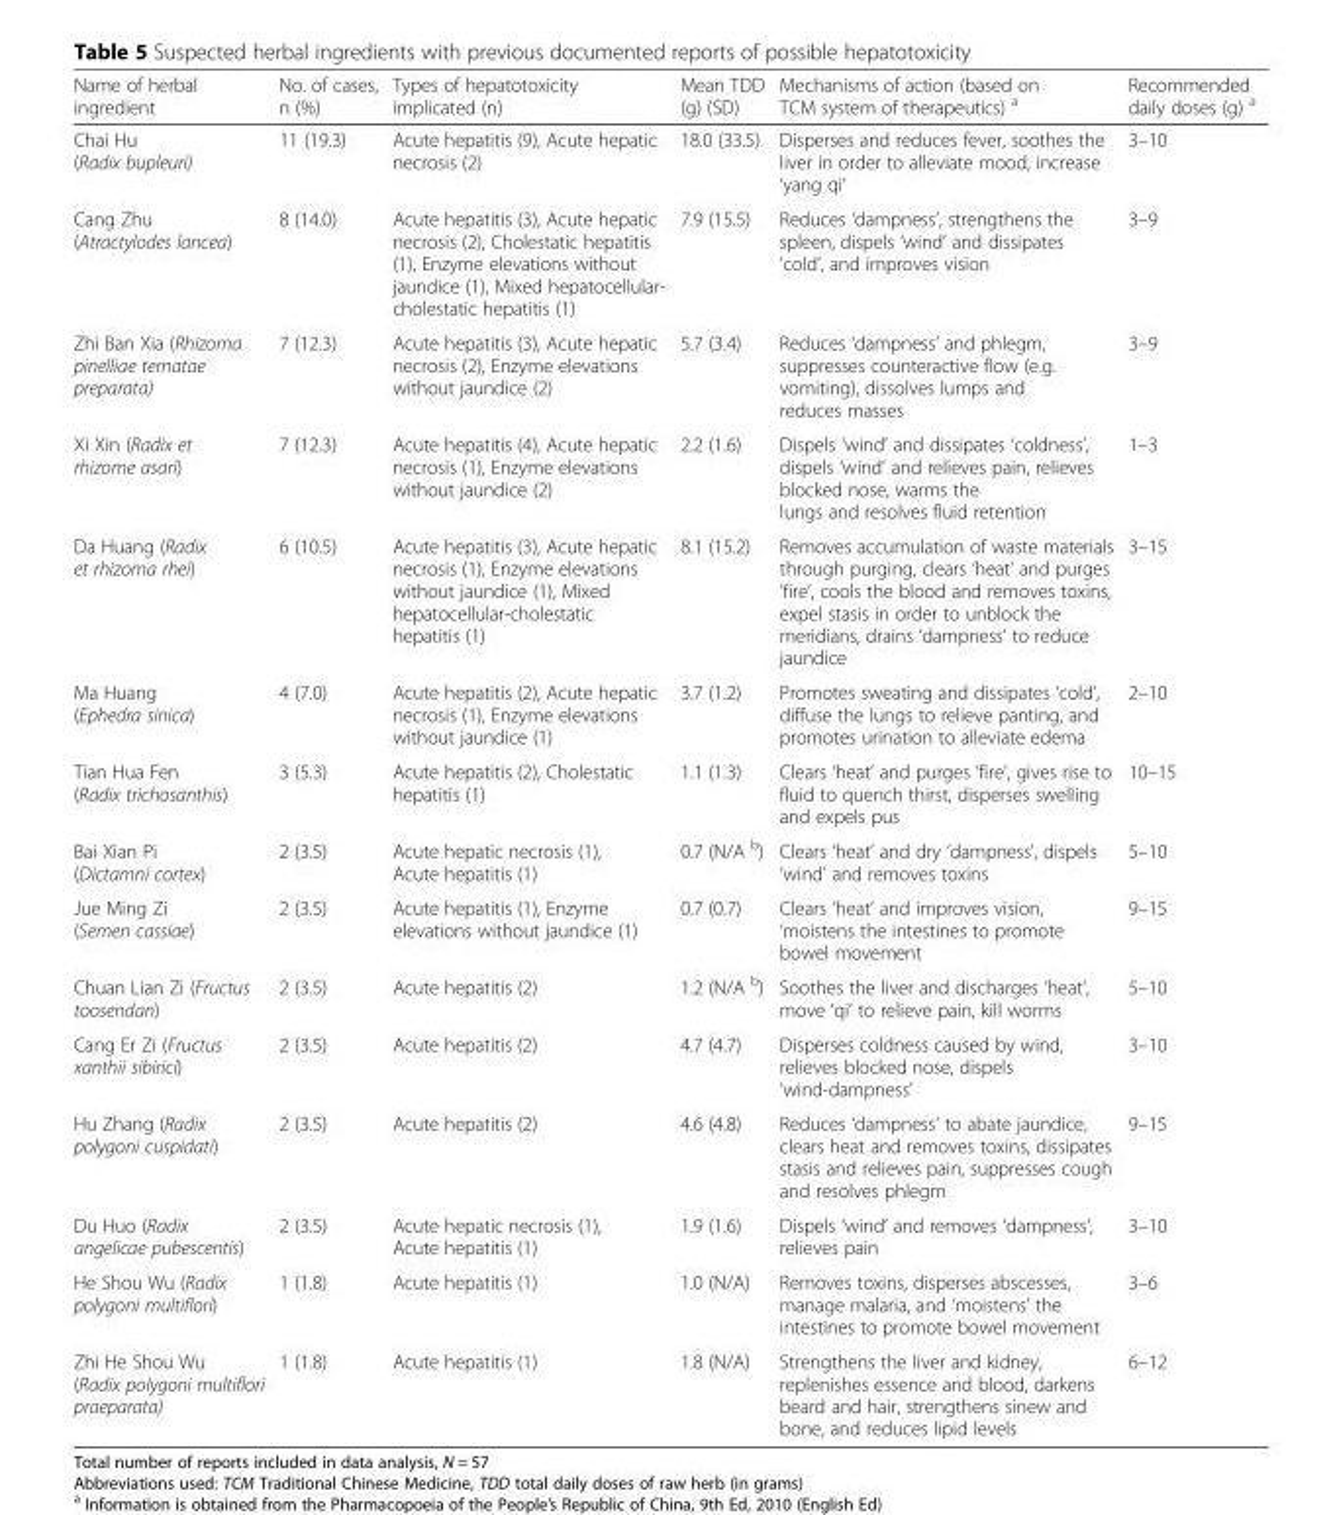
<table><thead><tr><td>Name of herbal ingredient</td><td>No. of cases, n (%)</td><td>Types of hepatotoxicity implicated (n)</td><td>Mean TDD (g) (SD)</td><td>Mechanisms of action (based on TCM system of therapeutics) <sup>a</sup></td><td>Recommended daily doses (g) <sup>a</sup></td></tr></thead><tbody><tr><td>Chai Hu (Radix bupleuri)</td><td>11 (19.3)</td><td>Acute hepatitis (9), Acute hepatic necrosis (2)</td><td>18.0 (33.5)</td><td>Disperses and reduces fever, soothes the liver in order to alleviate mood, increase ‘yang qi’</td><td>3–10</td></tr><tr><td>Cang Zhu (Atractylodes lancea)</td><td>8 (14.0)</td><td>Acute hepatitis (3), Acute hepatic necrosis (2), Cholestatic hepatitis (1), Enzyme elevations without jaundice (1), Mixed hepatocellular- cholestatic hepatitis (1)</td><td>7.9 (15.5)</td><td>Reduces ‘dampness’, strengthens the spleen, dispels ‘wind’ and dissipates ‘cold’, and improves vision</td><td>3–9</td></tr><tr><td>Zhi Ban Xia (Rhizoma pinelliae ternatae preparata)</td><td>7 (12.3)</td><td>Acute hepatitis (3), Acute hepatic necrosis (2), Enzyme elevations without jaundice (2)</td><td>5.7 (3.4)</td><td>Reduces ‘dampness’ and phlegm, suppresses counteractive flow (e.g. vomiting), dissolves lumps and reduces masses</td><td>3–9</td></tr><tr><td>Xi Xin (Radix et rhizome asari)</td><td>7 (12.3)</td><td>Acute hepatitis (4), Acute hepatic necrosis (1), Enzyme elevations without jaundice (2)</td><td>2.2 (1.6)</td><td>Dispels ‘wind’ and dissipates ‘coldness’, dispels ‘wind’ and relieves pain, relieves blocked nose, warms the lungs and resolves fluid retention</td><td>1–3</td></tr><tr><td>Da Huang (Radix et rhizoma rhei)</td><td>6 (10.5)</td><td>Acute hepatitis (3), Acute hepatic necrosis (1), Enzyme elevations without jaundice (1), Mixed hepatocellular-cholestatic hepatitis (1)</td><td>8.1 (15.2)</td><td>Removes accumulation of waste materials through purging, clears ‘heat’ and purges ‘fire’, cools the blood and removes toxins, expel stasis in order to unblock the meridians, drains ‘dampness’ to reduce jaundice</td><td>3–15</td></tr><tr><td>Ma Huang (Ephedra sinica)</td><td>4 (7.0)</td><td>Acute hepatitis (2), Acute hepatic necrosis (1), Enzyme elevations without jaundice (1)</td><td>3.7 (1.2)</td><td>Promotes sweating and dissipates ‘cold’, diffuse the lungs to relieve panting, and promotes urination to alleviate edema</td><td>2–10</td></tr><tr><td>Tian Hua Fen (Radix trichosanthis)</td><td>3 (5.3)</td><td>Acute hepatitis (2), Cholestatic hepatitis (1)</td><td>1.1 (1.3)</td><td>Clears ‘heat’ and purges ‘fire’, gives rise to fluid to quench thirst, disperses swelling and expels pus</td><td>10–15</td></tr><tr><td>Bai Xian Pi (Dictamni cortex)</td><td>2 (3.5)</td><td>Acute hepatic necrosis (1), Acute hepatitis (1)</td><td>0.7 (N/A <sup>b</sup>)</td><td>Clears ‘heat’ and dry ‘dampness’, dispels ‘wind’ and removes toxins</td><td>5–10</td></tr><tr><td>Jue Ming Zi (Semen cassiae)</td><td>2 (3.5)</td><td>Acute hepatitis (1), Enzyme elevations without jaundice (1)</td><td>0.7 (0.7)</td><td>Clears ‘heat’ and improves vision, ‘moistens the intestines to promote bowel movement</td><td>9–15</td></tr><tr><td>Chuan Lian Zi (Fructus toosendan)</td><td>2 (3.5)</td><td>Acute hepatitis (2)</td><td>1.2 (N/A <sup>b</sup>)</td><td>Soothes the liver and discharges ‘heat’, move ‘qi’ to relieve pain, kill worms</td><td>5–10</td></tr><tr><td>Cang Er Zi (Fructus xanthii sibirici)</td><td>2 (3.5)</td><td>Acute hepatitis (2)</td><td>4.7 (4.7)</td><td>Disperses coldness caused by wind, relieves blocked nose, dispels ‘wind-dampness’</td><td>3–10</td></tr><tr><td>Hu Zhang (Radix polygoni cuspidati)</td><td>2 (3.5)</td><td>Acute hepatitis (2)</td><td>4.6 (4.8)</td><td>Reduces ‘dampness’ to abate jaundice, clears heat and removes toxins, dissipates stasis and relieves pain, suppresses cough and resolves phlegm</td><td>9–15</td></tr><tr><td>Du Huo (Radix angelicae pubescentis)</td><td>2 (3.5)</td><td>Acute hepatic necrosis (1), Acute hepatitis (1)</td><td>1.9 (1.6)</td><td>Dispels ‘wind’ and removes ‘dampness’, relieves pain</td><td>3–10</td></tr><tr><td>He Shou Wu (Radix polygoni multiflori)</td><td>1 (1.8)</td><td>Acute hepatitis (1)</td><td>1.0 (N/A)</td><td>Removes toxins, disperses abscesses, manage malaria, and ‘moistens’ the intestines to promote bowel movement</td><td>3–6</td></tr><tr><td>Zhi He Shou Wu (Radix polygoni multiflori praeparata)</td><td>1 (1.8)</td><td>Acute hepatitis (1)</td><td>1.8 (N/A)</td><td>Strengthens the liver and kidney, replenishes essence and blood, darkens beard and hair, strengthens sinew and bone, and reduces lipid levels</td><td>6–12</td></tr></tbody></table>